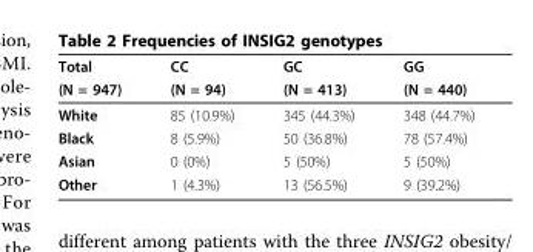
<table><thead><tr><td rowspan="2">Total (N = 947)</td><td rowspan="2">CC (N = 94)</td><td rowspan="2">GC (N = 413)</td><td rowspan="2">GG (N = 440)</td></tr><tr></tr></thead><tbody><tr><td>White</td><td>85 (10.9%)</td><td>345 (44.3%)</td><td>348 (44.7%)</td></tr><tr><td>Black</td><td>8 (5.9%)</td><td>50 (36.8%)</td><td>78 (57.4%)</td></tr><tr><td>Asian</td><td>0 (0%)</td><td>5 (50%)</td><td>5 (50%)</td></tr><tr><td>Other</td><td>1 (4.3%)</td><td>13 (56.5%)</td><td>9 (39.2%)</td></tr></tbody></table>